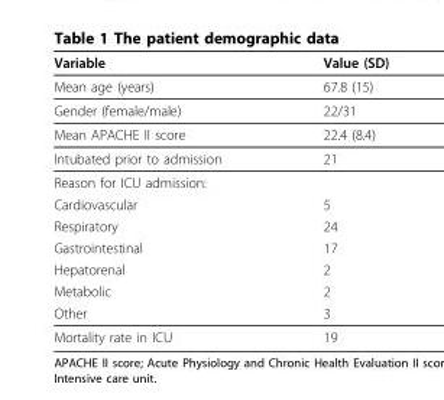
<table><thead><tr><td>Variable</td><td>Value (SD)</td></tr></thead><tbody><tr><td>Mean age (years)</td><td>67.8 (15)</td></tr><tr><td>Gender (female/male)</td><td>22/31</td></tr><tr><td>Mean APACHE II score</td><td>22.4 (8.4)</td></tr><tr><td>Intubated prior to admission</td><td>21</td></tr><tr><td colspan="2">Reason for ICU admission:</td></tr><tr><td>Cardiovascular</td><td>5</td></tr><tr><td>Respiratory</td><td>24</td></tr><tr><td>Gastrointestinal</td><td>17</td></tr><tr><td>Hepatorenal</td><td>2</td></tr><tr><td>Metabolic</td><td>2</td></tr><tr><td>Other</td><td>3</td></tr><tr><td>Mortality rate in ICU</td><td>19</td></tr></tbody></table>